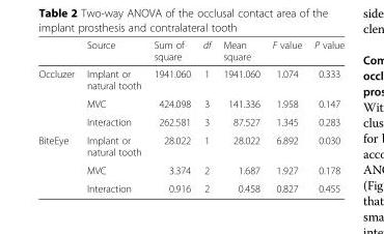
<table><thead><tr><td></td><td>Source</td><td>Sum of square</td><td>df</td><td>Mean square</td><td>F value</td><td>P value</td></tr></thead><tbody><tr><td rowspan="3">Occluzer</td><td>Implant or natural tooth</td><td>1941.060</td><td>1</td><td>1941.060</td><td>1.074</td><td>0.333</td></tr><tr><td>MVC</td><td>424.098</td><td>3</td><td>141.336</td><td>1.958</td><td>0.147</td></tr><tr><td>Interaction</td><td>262.581</td><td>3</td><td>87.527</td><td>1.345</td><td>0.283</td></tr><tr><td rowspan="3">BiteEye</td><td>Implant or natural tooth</td><td>28.022</td><td>1</td><td>28.022</td><td>6.892</td><td>0.030</td></tr><tr><td>MVC</td><td>3.374</td><td>2</td><td>1.687</td><td>1.927</td><td>0.178</td></tr><tr><td>Interaction</td><td>0.916</td><td>2</td><td>0.458</td><td>0.827</td><td>0.455</td></tr></tbody></table>